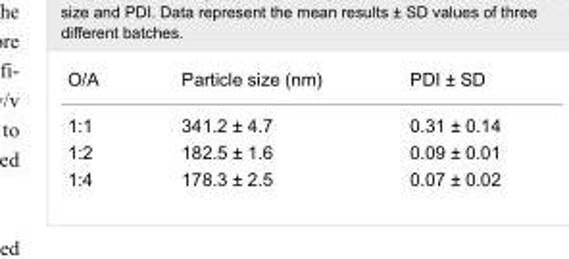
<table><tbody><tr><td>O/A</td><td>Particle size (nm)</td><td>PDI ± SD</td></tr><tr><td>1:1</td><td>341.2 ± 4.7</td><td>0.31 ± 0.14</td></tr><tr><td>1:2</td><td>182.5 ± 1.6</td><td>0.09 ± 0.01</td></tr><tr><td>1:4</td><td>178.3 ± 2.5</td><td>0.07 ± 0.02</td></tr></tbody></table>